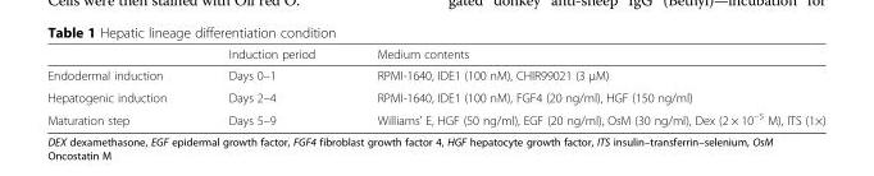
<table><thead><tr><td></td><td>Induction period</td><td>Medium contents</td></tr></thead><tbody><tr><td>Endodermal induction</td><td>Days 0–1</td><td>RPMI-1640, IDE1 (100 nM), CHIR99021 (3 μM)</td></tr><tr><td>Hepatogenic induction</td><td>Days 2–4</td><td>RPMI-1640, IDE1 (100 nM), FGF4 (20 ng/ml), HGF (150 ng/ml)</td></tr><tr><td>Maturation step</td><td>Days 5–9</td><td>Williams’ E, HGF (50 ng/ml), EGF (20 ng/ml), OsM (30 ng/ml), Dex (2 × 10<sup>−5</sup> M), ITS (1×)</td></tr></tbody></table>